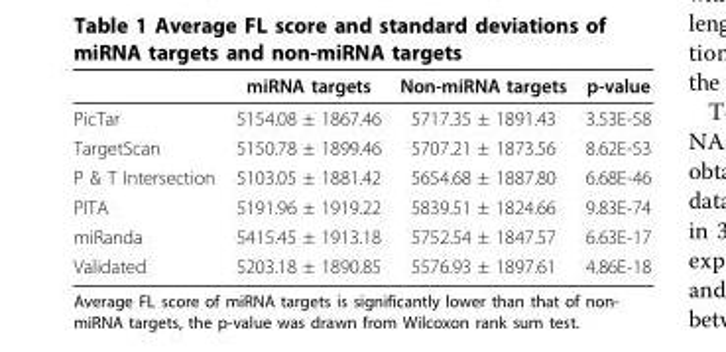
<table><thead><tr><td></td><td>miRNA targets</td><td>Non-miRNA targets</td><td>p-value</td></tr></thead><tbody><tr><td>PicTar</td><td>5154.08 ± 1867.46</td><td>5717.35 ± 1891.43</td><td>3.53E-58</td></tr><tr><td>TargetScan</td><td>5150.78 ± 1899.46</td><td>5707.21 ± 1873.56</td><td>8.62E-53</td></tr><tr><td>P &amp; T Intersection</td><td>5103.05 ± 1881.42</td><td>5654.68 ± 1887.80</td><td>6.68E-46</td></tr><tr><td>PITA</td><td>5191.96 ± 1919.22</td><td>5839.51 ± 1824.66</td><td>9.83E-74</td></tr><tr><td>miRanda</td><td>5415.45 ± 1913.18</td><td>5752.54 ± 1847.57</td><td>6.63E-17</td></tr><tr><td>Validated</td><td>5203.18 ± 1890.85</td><td>5576.93 ± 1897.61</td><td>4.86E-18</td></tr></tbody></table>